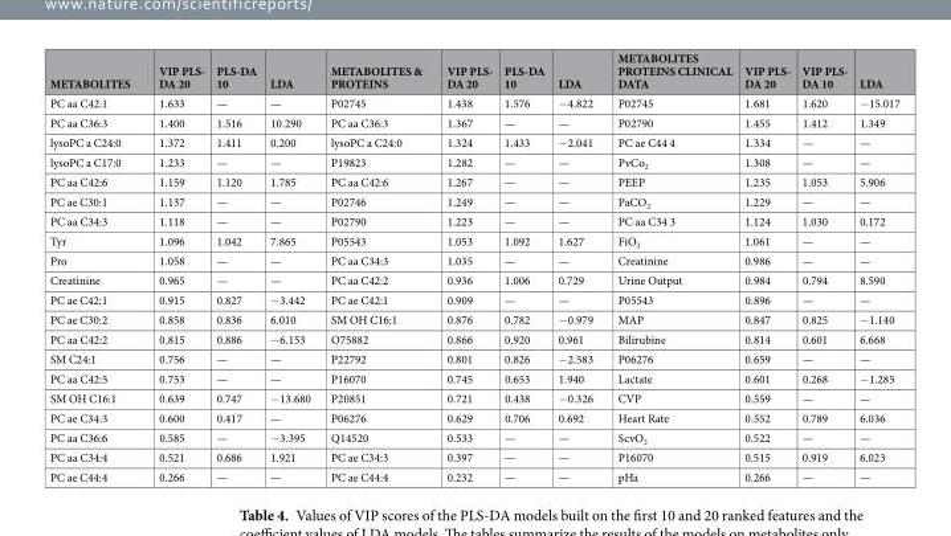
<table><thead><tr><td>METABOLITES</td><td>VIP PLS- DA 20</td><td>PLS-DA 10</td><td>LDA</td><td>METABOLITES &amp; PROTEINS</td><td>VIP PLS- DA 20</td><td>PLS-DA 10</td><td>LDA</td><td>METABOLITES PROTEINS CLINICAL DATA</td><td>VIP PLS- DA 20</td><td>VIP PLS- DA 10</td><td>LDA</td></tr></thead><tbody><tr><td>PC aa C42:1</td><td>1.633</td><td>—</td><td>—</td><td>P02745</td><td>1.438</td><td>1.576</td><td>−4.822</td><td>P02745</td><td>1.681</td><td>1.620</td><td>−15.017</td></tr><tr><td>PC aa C36:3</td><td>1.400</td><td>1.516</td><td>10.290</td><td>PC aa C36:3</td><td>1.367</td><td>—</td><td>—</td><td>P02790</td><td>1.455</td><td>1.412</td><td>1.349</td></tr><tr><td>lysoPC a C24:0</td><td>1.372</td><td>1.411</td><td>0.200</td><td>lysoPC a C24:0</td><td>1.324</td><td>1.433</td><td>−2.041</td><td>PC ae C44 4</td><td>1.334</td><td>—</td><td>—</td></tr><tr><td>lysoPC a C17:0</td><td>1.233</td><td>—</td><td>—</td><td>P19823</td><td>1.282</td><td>—</td><td>—</td><td>PvCo<sub>2</sub></td><td>1.308</td><td>—</td><td>—</td></tr><tr><td>PC aa C42:6</td><td>1.159</td><td>1.120</td><td>1.785</td><td>PC aa C42:6</td><td>1.267</td><td>—</td><td>—</td><td>PEEP</td><td>1.235</td><td>1.053</td><td>5.906</td></tr><tr><td>PC ae C30:1</td><td>1.137</td><td>—</td><td>—</td><td>P02746</td><td>1.249</td><td>—</td><td>—</td><td>PaCO<sub>2</sub></td><td>1.229</td><td>—</td><td>—</td></tr><tr><td>PC aa C34:3</td><td>1.118</td><td>—</td><td>—</td><td>P02790</td><td>1.223</td><td>—</td><td>—</td><td>PC aa C34 3</td><td>1.124</td><td>1.030</td><td>0.172</td></tr><tr><td>Tyr</td><td>1.096</td><td>1.042</td><td>7.865</td><td>P05543</td><td>1.053</td><td>1.092</td><td>1.627</td><td>FiO<sub>2</sub></td><td>1.061</td><td>—</td><td>—</td></tr><tr><td>Pro</td><td>1.058</td><td>—</td><td>—</td><td>PC aa C34:3</td><td>1.035</td><td>—</td><td>—</td><td>Creatinine</td><td>0.986</td><td>—</td><td>—</td></tr><tr><td>Creatinine</td><td>0.965</td><td>—</td><td>—</td><td>PC aa C42:2</td><td>0.936</td><td>1.006</td><td>0.729</td><td>Urine Output</td><td>0.984</td><td>0.794</td><td>8.590</td></tr><tr><td>PC ae C42:1</td><td>0.915</td><td>0.827</td><td>−3.442</td><td>PC ae C42:1</td><td>0.909</td><td>—</td><td>—</td><td>P05543</td><td>0.896</td><td>—</td><td>—</td></tr><tr><td>PC ae C30:2</td><td>0.858</td><td>0.836</td><td>6.010</td><td>SM OH C16:1</td><td>0.876</td><td>0.782</td><td>−0.979</td><td>MAP</td><td>0.847</td><td>0.825</td><td>−1.140</td></tr><tr><td>PC aa C42:2</td><td>0.815</td><td>0.886</td><td>−6.153</td><td>O75882</td><td>0.866</td><td>0.920</td><td>0.961</td><td>Bilirubine</td><td>0.814</td><td>0.601</td><td>6.668</td></tr><tr><td>SM C24:1</td><td>0.756</td><td>—</td><td>—</td><td>P22792</td><td>0.801</td><td>0.826</td><td>−2.583</td><td>P06276</td><td>0.659</td><td>—</td><td>—</td></tr><tr><td>PC aa C42:5</td><td>0.753</td><td>—</td><td>—</td><td>P16070</td><td>0.745</td><td>0.653</td><td>1.940</td><td>Lactate</td><td>0.601</td><td>0.268</td><td>−1.285</td></tr><tr><td>SM OH C16:1</td><td>0.639</td><td>0.747</td><td>−13.680</td><td>P20851</td><td>0.721</td><td>0.438</td><td>−0.326</td><td>CVP</td><td>0.559</td><td>—</td><td>—</td></tr><tr><td>PC ae C34:3</td><td>0.600</td><td>0.417</td><td>—</td><td>P06276</td><td>0.629</td><td>0.706</td><td>0.692</td><td>Heart Rate</td><td>0.552</td><td>0.789</td><td>6.036</td></tr><tr><td>PC aa C36:6</td><td>0.585</td><td>—</td><td>−3.395</td><td>Q14520</td><td>0.533</td><td>—</td><td>—</td><td>ScvO<sub>2</sub></td><td>0.522</td><td>—</td><td>—</td></tr><tr><td>PC aa C34:4</td><td>0.521</td><td>0.686</td><td>1.921</td><td>PC ae C34:3</td><td>0.397</td><td>—</td><td>—</td><td>P16070</td><td>0.515</td><td>0.919</td><td>6.023</td></tr><tr><td>PC ae C44:4</td><td>0.266</td><td>—</td><td>—</td><td>PC ae C44:4</td><td>0.232</td><td>—</td><td>—</td><td>pHa</td><td>0.266</td><td>—</td><td>—</td></tr></tbody></table>